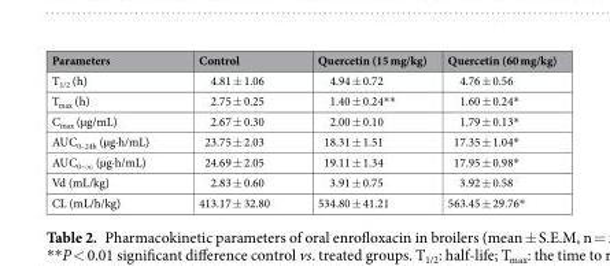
<table><thead><tr><td>Parameters</td><td>Control</td><td>Quercetin (15 mg/kg)</td><td>Quercetin (60 mg/kg)</td></tr></thead><tbody><tr><td>T<sub>1/2</sub> (h)</td><td>4.81 ± 1.06</td><td>4.94 ± 0.72</td><td>4.76 ± 0.56</td></tr><tr><td>T<sub>max</sub> (h)</td><td>2.75 ± 0.25</td><td>1.40 ± 0.24**</td><td>1.60 ± 0.24*</td></tr><tr><td>C<sub>max</sub> (µg/mL)</td><td>2.67 ± 0.30</td><td>2.00 ± 0.10</td><td>1.79 ± 0.13*</td></tr><tr><td>AUC<sub>0–24h</sub> (µg·h/mL)</td><td>23.75 ± 2.03</td><td>18.31 ± 1.51</td><td>17.35 ± 1.04*</td></tr><tr><td>AUC<sub>0~∞</sub> (µg·h/mL)</td><td>24.69 ± 2.05</td><td>19.11 ± 1.34</td><td>17.95 ± 0.98*</td></tr><tr><td>Vd (mL/kg)</td><td>2.83 ± 0.60</td><td>3.91 ± 0.75</td><td>3.92 ± 0.58</td></tr><tr><td>CL (mL/h/kg)</td><td>413.17 ± 32.80</td><td>534.80 ± 41.21</td><td>563.45 ± 29.76*</td></tr></tbody></table>